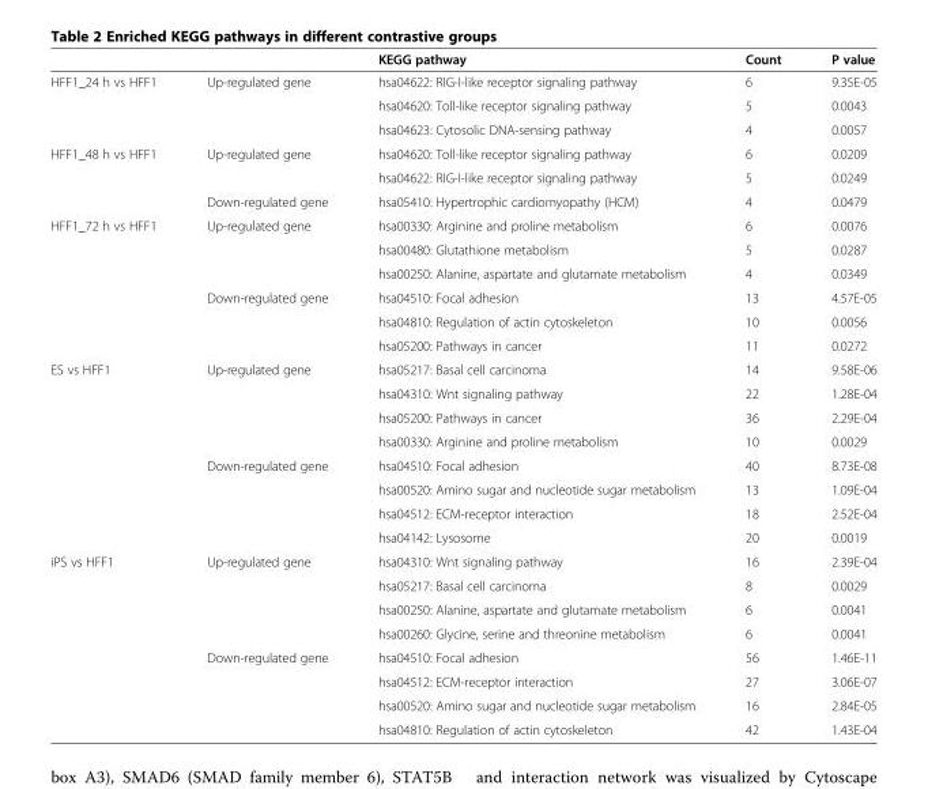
<table><thead><tr><td></td><td></td><td>KEGG pathway</td><td>Count</td><td>P value</td></tr></thead><tbody><tr><td rowspan="3">HFF1_24 h vs HFF1</td><td rowspan="3">Up-regulated gene</td><td>hsa04622: RIG-I-like receptor signaling pathway</td><td>6</td><td>9.35E-05</td></tr><tr><td>hsa04620: Toll-like receptor signaling pathway</td><td>5</td><td>0.0043</td></tr><tr><td>hsa04623: Cytosolic DNA-sensing pathway</td><td>4</td><td>0.0057</td></tr><tr><td rowspan="3">HFF1_48 h vs HFF1</td><td rowspan="2">Up-regulated gene</td><td>hsa04620: Toll-like receptor signaling pathway</td><td>6</td><td>0.0209</td></tr><tr><td>hsa04622: RIG-I-like receptor signaling pathway</td><td>5</td><td>0.0249</td></tr><tr><td>Down-regulated gene</td><td>hsa05410: Hypertrophic cardiomyopathy (HCM)</td><td>4</td><td>0.0479</td></tr><tr><td rowspan="6">HFF1_72 h vs HFF1</td><td rowspan="3">Up-regulated gene</td><td>hsa00330: Arginine and proline metabolism</td><td>6</td><td>0.0076</td></tr><tr><td>hsa00480: Glutathione metabolism</td><td>5</td><td>0.0287</td></tr><tr><td>hsa00250: Alanine, aspartate and glutamate metabolism</td><td>4</td><td>0.0349</td></tr><tr><td rowspan="3">Down-regulated gene</td><td>hsa04510: Focal adhesion</td><td>13</td><td>4.57E-05</td></tr><tr><td>hsa04810: Regulation of actin cytoskeleton</td><td>10</td><td>0.0056</td></tr><tr><td>hsa05200: Pathways in cancer</td><td>11</td><td>0.0272</td></tr><tr><td rowspan="8">ES vs HFF1</td><td rowspan="4">Up-regulated gene</td><td>hsa05217: Basal cell carcinoma</td><td>14</td><td>9.58E-06</td></tr><tr><td>hsa04310: Wnt signaling pathway</td><td>22</td><td>1.28E-04</td></tr><tr><td>hsa05200: Pathways in cancer</td><td>36</td><td>2.29E-04</td></tr><tr><td>hsa00330: Arginine and proline metabolism</td><td>10</td><td>0.0029</td></tr><tr><td rowspan="4">Down-regulated gene</td><td>hsa04510: Focal adhesion</td><td>40</td><td>8.73E-08</td></tr><tr><td>hsa00520: Amino sugar and nucleotide sugar metabolism</td><td>13</td><td>1.09E-04</td></tr><tr><td>hsa04512: ECM-receptor interaction</td><td>18</td><td>2.52E-04</td></tr><tr><td>hsa04142: Lysosome</td><td>20</td><td>0.0019</td></tr><tr><td rowspan="8">iPS vs HFF1</td><td rowspan="4">Up-regulated gene</td><td>hsa04310: Wnt signaling pathway</td><td>16</td><td>2.39E-04</td></tr><tr><td>hsa05217: Basal cell carcinoma</td><td>8</td><td>0.0029</td></tr><tr><td>hsa00250: Alanine, aspartate and glutamate metabolism</td><td>6</td><td>0.0041</td></tr><tr><td>hsa00260: Glycine, serine and threonine metabolism</td><td>6</td><td>0.0041</td></tr><tr><td rowspan="4">Down-regulated gene</td><td>hsa04510: Focal adhesion</td><td>56</td><td>1.46E-11</td></tr><tr><td>hsa04512: ECM-receptor interaction</td><td>27</td><td>3.06E-07</td></tr><tr><td>hsa00520: Amino sugar and nucleotide sugar metabolism</td><td>16</td><td>2.84E-05</td></tr><tr><td>hsa04810: Regulation of actin cytoskeleton</td><td>42</td><td>1.43E-04</td></tr></tbody></table>